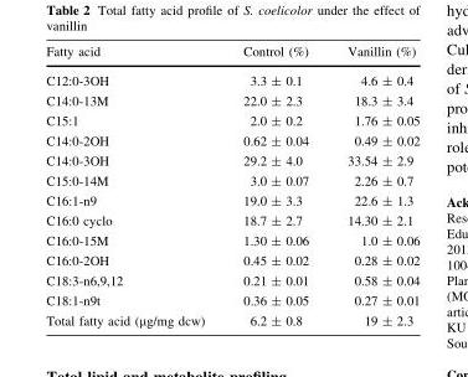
<table><thead><tr><td>Fatty acid</td><td>Control (%)</td><td>Vanillin (%)</td></tr></thead><tbody><tr><td>C12:0-3OH</td><td>3.3 ± 0.1</td><td>4.6 ± 0.4</td></tr><tr><td>C14:0-13M</td><td>22.0 ± 2.3</td><td>18.3 ± 3.4</td></tr><tr><td>C15:1</td><td>2.0 ± 0.2</td><td>1.76 ± 0.05</td></tr><tr><td>C14:0-2OH</td><td>0.62 ± 0.04</td><td>0.49 ± 0.02</td></tr><tr><td>C14:0-3OH</td><td>29.2 ± 4.0</td><td>33.54 ± 2.9</td></tr><tr><td>C15:0-14M</td><td>3.0 ± 0.07</td><td>2.26 ± 0.7</td></tr><tr><td>C16:1-n9</td><td>19.0 ± 3.3</td><td>22.6 ± 1.3</td></tr><tr><td>C16:0 cyclo</td><td>18.7 ± 2.7</td><td>14.30 ± 2.1</td></tr><tr><td>C16:0-15M</td><td>1.30 ± 0.06</td><td>1.0 ± 0.06</td></tr><tr><td>C16:0-2OH</td><td>0.45 ± 0.02</td><td>0.28 ± 0.02</td></tr><tr><td>C18:3-n6,9,12</td><td>0.21 ± 0.01</td><td>0.58 ± 0.04</td></tr><tr><td>C18:1-n9t</td><td>0.36 ± 0.05</td><td>0.27 ± 0.01</td></tr><tr><td>Total fatty acid (µg/mg dcw)</td><td>6.2 ± 0.8</td><td>19 ± 2.3</td></tr></tbody></table>